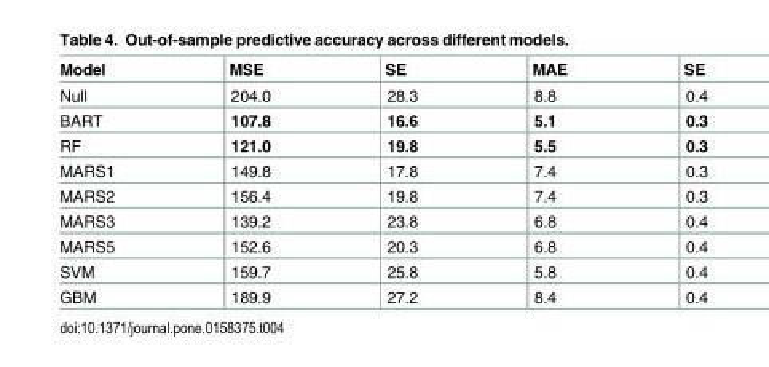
<table><thead><tr><td>Model</td><td>MSE</td><td>SE</td><td>MAE</td><td>SE</td></tr></thead><tbody><tr><td>Null</td><td>204.0</td><td>28.3</td><td>8.8</td><td>0.4</td></tr><tr><td>BART</td><td>107.8</td><td>16.6</td><td>5.1</td><td>0.3</td></tr><tr><td>RF</td><td>121.0</td><td>19.8</td><td>5.5</td><td>0.3</td></tr><tr><td>MARS1</td><td>149.8</td><td>17.8</td><td>7.4</td><td>0.3</td></tr><tr><td>MARS2</td><td>156.4</td><td>19.8</td><td>7.4</td><td>0.3</td></tr><tr><td>MARS3</td><td>139.2</td><td>23.8</td><td>6.8</td><td>0.4</td></tr><tr><td>MARS5</td><td>152.6</td><td>20.3</td><td>6.8</td><td>0.4</td></tr><tr><td>SVM</td><td>159.7</td><td>25.8</td><td>5.8</td><td>0.4</td></tr><tr><td>GBM</td><td>189.9</td><td>27.2</td><td>8.4</td><td>0.4</td></tr></tbody></table>